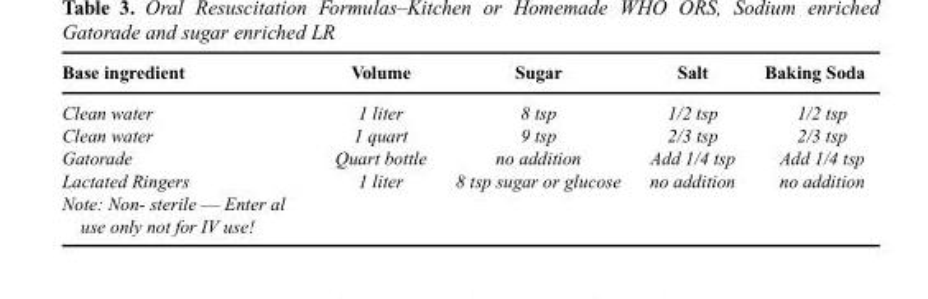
<table><thead><tr><td>Base ingredient</td><td>Volume</td><td>Sugar</td><td>Salt</td><td>Baking Soda</td></tr></thead><tbody><tr><td>Clean water</td><td>1 liter</td><td>8 tsp</td><td>1/2 tsp</td><td>1/2 tsp</td></tr><tr><td>Clean water</td><td>1 quart</td><td>9 tsp</td><td>2/3 tsp</td><td>2/3 tsp</td></tr><tr><td>Gatorade</td><td>Quart bottle</td><td>no addition</td><td>Add 1/4 tsp</td><td>Add 1/4 tsp</td></tr><tr><td>Lactated Ringers</td><td>1 liter</td><td>8 tsp sugar or glucose</td><td>no addition</td><td>no addition</td></tr><tr><td>Note: Non- sterile — Enter al use only not for IV use!</td><td></td><td></td><td></td><td></td></tr></tbody></table>